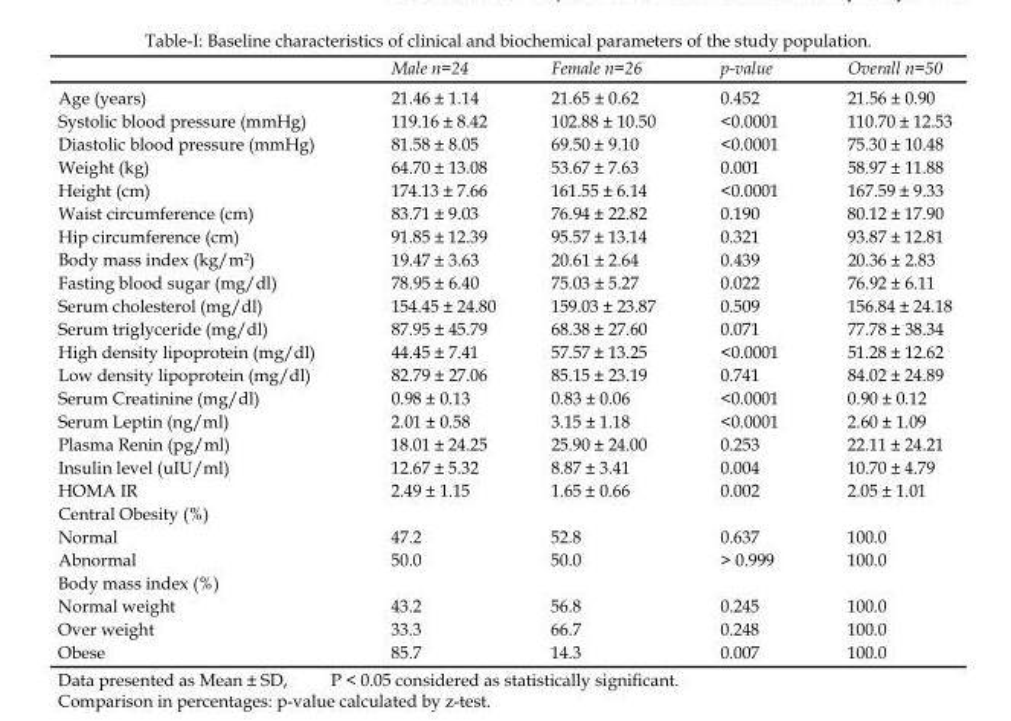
<table><thead><tr><td></td><td>Male n=24</td><td>Female n=26</td><td>p-value</td><td>Overall n=50</td></tr></thead><tbody><tr><td>Age (years)</td><td>21.46 ± 1.14</td><td>21.65 ± 0.62</td><td>0.452</td><td>21.56 ± 0.90</td></tr><tr><td>Systolic blood pressure (mmHg)</td><td>119.16 ± 8.42</td><td>102.88 ± 10.50</td><td>&lt;0.0001</td><td>110.70 ± 12.53</td></tr><tr><td>Diastolic blood pressure (mmHg)</td><td>81.58 ± 8.05</td><td>69.50 ± 9.10</td><td>&lt;0.0001</td><td>75.30 ± 10.48</td></tr><tr><td>Weight (kg)</td><td>64.70 ± 13.08</td><td>53.67 ± 7.63</td><td>0.001</td><td>58.97 ± 11.88</td></tr><tr><td>Height (cm)</td><td>174.13 ± 7.66</td><td>161.55 ± 6.14</td><td>&lt;0.0001</td><td>167.59 ± 9.33</td></tr><tr><td>Waist circumference (cm)</td><td>83.71 ± 9.03</td><td>76.94 ± 22.82</td><td>0.190</td><td>80.12 ± 17.90</td></tr><tr><td>Hip circumference (cm)</td><td>91.85 ± 12.39</td><td>95.57 ± 13.14</td><td>0.321</td><td>93.87 ± 12.81</td></tr><tr><td>Body mass index (kg/m<sup>2</sup>)</td><td>19.47 ± 3.63</td><td>20.61 ± 2.64</td><td>0.439</td><td>20.36 ± 2.83</td></tr><tr><td>Fasting blood sugar (mg/dl)</td><td>78.95 ± 6.40</td><td>75.03 ± 5.27</td><td>0.022</td><td>76.92 ± 6.11</td></tr><tr><td>Serum cholesterol (mg/dl)</td><td>154.45 ± 24.80</td><td>159.03 ± 23.87</td><td>0.509</td><td>156.84 ± 24.18</td></tr><tr><td>Serum triglyceride (mg/dl)</td><td>87.95 ± 45.79</td><td>68.38 ± 27.60</td><td>0.071</td><td>77.78 ± 38.34</td></tr><tr><td>High density lipoprotein (mg/dl)</td><td>44.45 ± 7.41</td><td>57.57 ± 13.25</td><td>&lt;0.0001</td><td>51.28 ± 12.62</td></tr><tr><td>Low density lipoprotein (mg/dl)</td><td>82.79 ± 27.06</td><td>85.15 ± 23.19</td><td>0.741</td><td>84.02 ± 24.89</td></tr><tr><td>Serum Creatinine (mg/dl)</td><td>0.98 ± 0.13</td><td>0.83 ± 0.06</td><td>&lt;0.0001</td><td>0.90 ± 0.12</td></tr><tr><td>Serum Leptin (ng/ml)</td><td>2.01 ± 0.58</td><td>3.15 ± 1.18</td><td>&lt;0.0001</td><td>2.60 ± 1.09</td></tr><tr><td>Plasma Renin (pg/ml)</td><td>18.01 ± 24.25</td><td>25.90 ± 24.00</td><td>0.253</td><td>22.11 ± 24.21</td></tr><tr><td>Insulin level (uIU/ml)</td><td>12.67 ± 5.32</td><td>8.87 ± 3.41</td><td>0.004</td><td>10.70 ± 4.79</td></tr><tr><td>HOMA IR</td><td>2.49 ± 1.15</td><td>1.65 ± 0.66</td><td>0.002</td><td>2.05 ± 1.01</td></tr><tr><td colspan="5">Central Obesity (%)</td></tr><tr><td>Normal</td><td>47.2</td><td>52.8</td><td>0.637</td><td>100.0</td></tr><tr><td>Abnormal</td><td>50.0</td><td>50.0</td><td>&gt; 0.999</td><td>100.0</td></tr><tr><td colspan="5">Body mass index (%)</td></tr><tr><td>Normal weight</td><td>43.2</td><td>56.8</td><td>0.245</td><td>100.0</td></tr><tr><td>Over weight</td><td>33.3</td><td>66.7</td><td>0.248</td><td>100.0</td></tr><tr><td>Obese</td><td>85.7</td><td>14.3</td><td>0.007</td><td>100.0</td></tr></tbody></table>